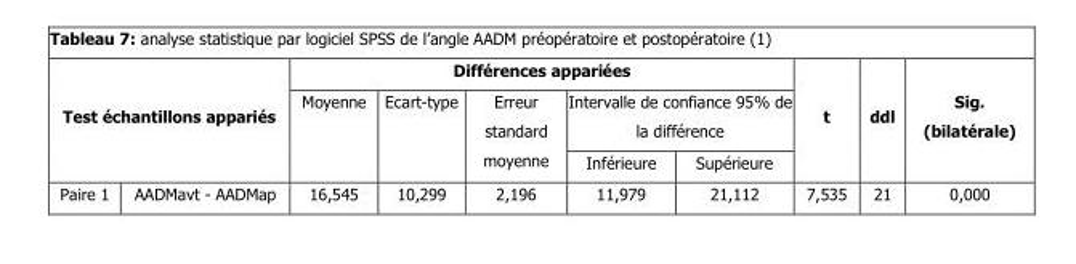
<table><thead><tr><td rowspan="3" colspan="2">Test échantillons appariés</td><td colspan="5">Différences appariées</td><td rowspan="4">t 7,535</td><td rowspan="4">ddl 21</td><td rowspan="4">Sig. (bilatérale) 0,000</td></tr><tr><td rowspan="3">Moyenne 16,545</td><td rowspan="3">Ecart-type 10,299</td><td rowspan="3">Erreur standard moyenne 2,196</td><td colspan="2">Intervalle de confiance 95% de la différence</td></tr><tr><td rowspan="2">Inférieure 11,979</td><td rowspan="2">Supérieure 21,112</td></tr><tr><td>Paire 1</td><td>AADMavt - AADMap</td></tr></thead><tbody></tbody></table>